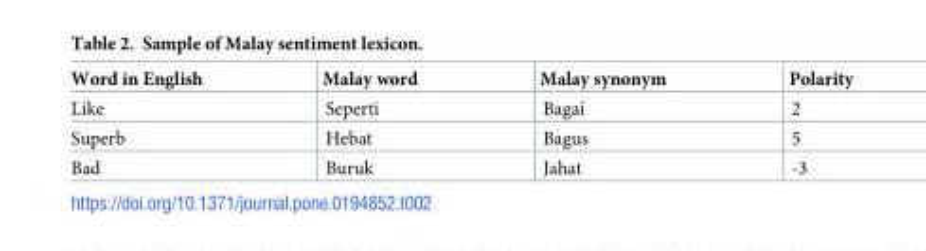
<table><thead><tr><td>Word in English</td><td>Malay word</td><td>Malay synonym</td><td>Polarity</td></tr></thead><tbody><tr><td>Like</td><td>Seperti</td><td>Bagai</td><td>2</td></tr><tr><td>Superb</td><td>Hebat</td><td>Bagus</td><td>5</td></tr><tr><td>Bad</td><td>Buruk</td><td>Jahat</td><td>-3</td></tr></tbody></table>